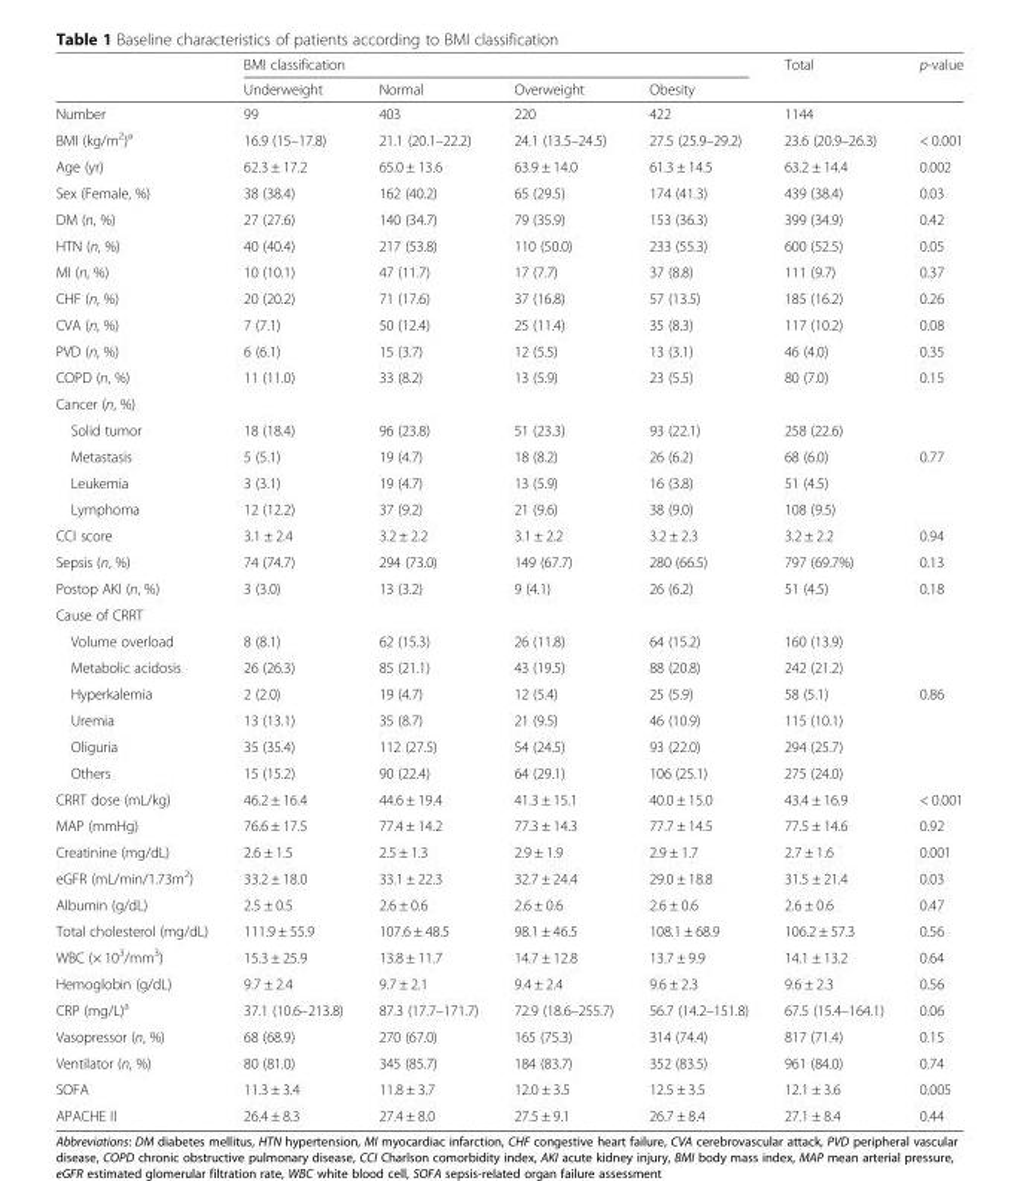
<table><thead><tr><td rowspan="2"></td><td colspan="4">BMI classification</td><td rowspan="2">Total</td><td rowspan="2">p-value</td></tr><tr><td>Underweight</td><td>Normal</td><td>Overweight</td><td>Obesity</td></tr></thead><tbody><tr><td>Number</td><td>99</td><td>403</td><td>220</td><td>422</td><td>1144</td><td></td></tr><tr><td>BMI (kg/m<sup>2</sup>)<sup>a</sup></td><td>16.9 (15–17.8)</td><td>21.1 (20.1–22.2)</td><td>24.1 (13.5–24.5)</td><td>27.5 (25.9–29.2)</td><td>23.6 (20.9–26.3)</td><td>&lt; 0.001</td></tr><tr><td>Age (yr)</td><td>62.3 ± 17.2</td><td>65.0 ± 13.6</td><td>63.9 ± 14.0</td><td>61.3 ± 14.5</td><td>63.2 ± 14.4</td><td>0.002</td></tr><tr><td>Sex (Female, %)</td><td>38 (38.4)</td><td>162 (40.2)</td><td>65 (29.5)</td><td>174 (41.3)</td><td>439 (38.4)</td><td>0.03</td></tr><tr><td>DM (n, %)</td><td>27 (27.6)</td><td>140 (34.7)</td><td>79 (35.9)</td><td>153 (36.3)</td><td>399 (34.9)</td><td>0.42</td></tr><tr><td>HTN (n, %)</td><td>40 (40.4)</td><td>217 (53.8)</td><td>110 (50.0)</td><td>233 (55.3)</td><td>600 (52.5)</td><td>0.05</td></tr><tr><td>MI (n, %)</td><td>10 (10.1)</td><td>47 (11.7)</td><td>17 (7.7)</td><td>37 (8.8)</td><td>111 (9.7)</td><td>0.37</td></tr><tr><td>CHF (n, %)</td><td>20 (20.2)</td><td>71 (17.6)</td><td>37 (16.8)</td><td>57 (13.5)</td><td>185 (16.2)</td><td>0.26</td></tr><tr><td>CVA (n, %)</td><td>7 (7.1)</td><td>50 (12.4)</td><td>25 (11.4)</td><td>35 (8.3)</td><td>117 (10.2)</td><td>0.08</td></tr><tr><td>PVD (n, %)</td><td>6 (6.1)</td><td>15 (3.7)</td><td>12 (5.5)</td><td>13 (3.1)</td><td>46 (4.0)</td><td>0.35</td></tr><tr><td>COPD (n, %)</td><td>11 (11.0)</td><td>33 (8.2)</td><td>13 (5.9)</td><td>23 (5.5)</td><td>80 (7.0)</td><td>0.15</td></tr><tr><td colspan="7">Cancer (n, %)</td></tr><tr><td>Solid tumor</td><td>18 (18.4)</td><td>96 (23.8)</td><td>51 (23.3)</td><td>93 (22.1)</td><td>258 (22.6)</td><td></td></tr><tr><td>Metastasis</td><td>5 (5.1)</td><td>19 (4.7)</td><td>18 (8.2)</td><td>26 (6.2)</td><td>68 (6.0)</td><td>0.77</td></tr><tr><td>Leukemia</td><td>3 (3.1)</td><td>19 (4.7)</td><td>13 (5.9)</td><td>16 (3.8)</td><td>51 (4.5)</td><td></td></tr><tr><td>Lymphoma</td><td>12 (12.2)</td><td>37 (9.2)</td><td>21 (9.6)</td><td>38 (9.0)</td><td>108 (9.5)</td><td></td></tr><tr><td>CCI score</td><td>3.1 ± 2.4</td><td>3.2 ± 2.2</td><td>3.1 ± 2.2</td><td>3.2 ± 2.3</td><td>3.2 ± 2.2</td><td>0.94</td></tr><tr><td>Sepsis (n, %)</td><td>74 (74.7)</td><td>294 (73.0)</td><td>149 (67.7)</td><td>280 (66.5)</td><td>797 (69.7%)</td><td>0.13</td></tr><tr><td>Postop AKI (n, %)</td><td>3 (3.0)</td><td>13 (3.2)</td><td>9 (4.1)</td><td>26 (6.2)</td><td>51 (4.5)</td><td>0.18</td></tr><tr><td colspan="7">Cause of CRRT</td></tr><tr><td>Volume overload</td><td>8 (8.1)</td><td>62 (15.3)</td><td>26 (11.8)</td><td>64 (15.2)</td><td>160 (13.9)</td><td></td></tr><tr><td>Metabolic acidosis</td><td>26 (26.3)</td><td>85 (21.1)</td><td>43 (19.5)</td><td>88 (20.8)</td><td>242 (21.2)</td><td></td></tr><tr><td>Hyperkalemia</td><td>2 (2.0)</td><td>19 (4.7)</td><td>12 (5.4)</td><td>25 (5.9)</td><td>58 (5.1)</td><td>0.86</td></tr><tr><td>Uremia</td><td>13 (13.1)</td><td>35 (8.7)</td><td>21 (9.5)</td><td>46 (10.9)</td><td>115 (10.1)</td><td></td></tr><tr><td>Oliguria</td><td>35 (35.4)</td><td>112 (27.5)</td><td>54 (24.5)</td><td>93 (22.0)</td><td>294 (25.7)</td><td></td></tr><tr><td>Others</td><td>15 (15.2)</td><td>90 (22.4)</td><td>64 (29.1)</td><td>106 (25.1)</td><td>275 (24.0)</td><td></td></tr><tr><td>CRRT dose (mL/kg)</td><td>46.2 ± 16.4</td><td>44.6 ± 19.4</td><td>41.3 ± 15.1</td><td>40.0 ± 15.0</td><td>43.4 ± 16.9</td><td>&lt; 0.001</td></tr><tr><td>MAP (mmHg)</td><td>76.6 ± 17.5</td><td>77.4 ± 14.2</td><td>77.3 ± 14.3</td><td>77.7 ± 14.5</td><td>77.5 ± 14.6</td><td>0.92</td></tr><tr><td>Creatinine (mg/dL)</td><td>2.6 ± 1.5</td><td>2.5 ± 1.3</td><td>2.9 ± 1.9</td><td>2.9 ± 1.7</td><td>2.7 ± 1.6</td><td>0.001</td></tr><tr><td>eGFR (mL/min/1.73m<sup>2</sup>)</td><td>33.2 ± 18.0</td><td>33.1 ± 22.3</td><td>32.7 ± 24.4</td><td>29.0 ± 18.8</td><td>31.5 ± 21.4</td><td>0.03</td></tr><tr><td>Albumin (g/dL)</td><td>2.5 ± 0.5</td><td>2.6 ± 0.6</td><td>2.6 ± 0.6</td><td>2.6 ± 0.6</td><td>2.6 ± 0.6</td><td>0.47</td></tr><tr><td>Total cholesterol (mg/dL)</td><td>111.9 ± 55.9</td><td>107.6 ± 48.5</td><td>98.1 ± 46.5</td><td>108.1 ± 68.9</td><td>106.2 ± 57.3</td><td>0.56</td></tr><tr><td>WBC (× 10<sup>3</sup>/mm<sup>3</sup>)</td><td>15.3 ± 25.9</td><td>13.8 ± 11.7</td><td>14.7 ± 12.8</td><td>13.7 ± 9.9</td><td>14.1 ± 13.2</td><td>0.64</td></tr><tr><td>Hemoglobin (g/dL)</td><td>9.7 ± 2.4</td><td>9.7 ± 2.1</td><td>9.4 ± 2.4</td><td>9.6 ± 2.3</td><td>9.6 ± 2.3</td><td>0.56</td></tr><tr><td>CRP (mg/L)<sup>a</sup></td><td>37.1 (10.6–213.8)</td><td>87.3 (17.7–171.7)</td><td>72.9 (18.6–255.7)</td><td>56.7 (14.2–151.8)</td><td>67.5 (15.4–164.1)</td><td>0.06</td></tr><tr><td>Vasopressor (n, %)</td><td>68 (68.9)</td><td>270 (67.0)</td><td>165 (75.3)</td><td>314 (74.4)</td><td>817 (71.4)</td><td>0.15</td></tr><tr><td>Ventilator (n, %)</td><td>80 (81.0)</td><td>345 (85.7)</td><td>184 (83.7)</td><td>352 (83.5)</td><td>961 (84.0)</td><td>0.74</td></tr><tr><td>SOFA</td><td>11.3 ± 3.4</td><td>11.8 ± 3.7</td><td>12.0 ± 3.5</td><td>12.5 ± 3.5</td><td>12.1 ± 3.6</td><td>0.005</td></tr><tr><td>APACHE II</td><td>26.4 ± 8.3</td><td>27.4 ± 8.0</td><td>27.5 ± 9.1</td><td>26.7 ± 8.4</td><td>27.1 ± 8.4</td><td>0.44</td></tr></tbody></table>